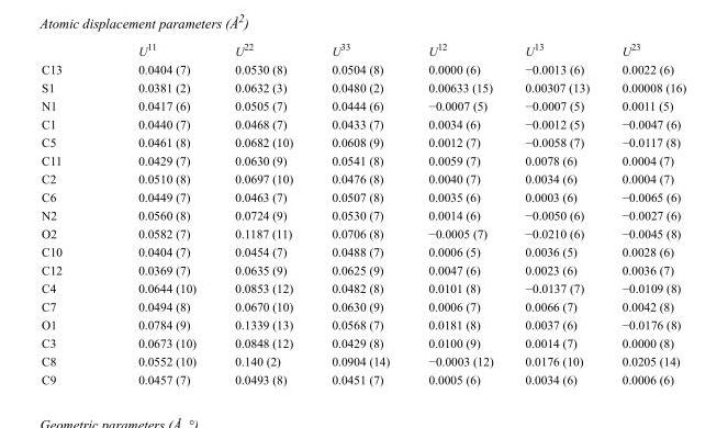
<table><thead><tr><td></td><td>U<sup>11</sup></td><td>U<sup>22</sup></td><td>U<sup>33</sup></td><td>U<sup>12</sup></td><td>U<sup>13</sup></td><td>U<sup>23</sup></td></tr></thead><tbody><tr><td>C13</td><td>0.0404 (7)</td><td>0.0530 (8)</td><td>0.0504 (8)</td><td>0.0000 (6)</td><td>−0.0013 (6)</td><td>0.0022 (6)</td></tr><tr><td>S1</td><td>0.0381 (2)</td><td>0.0632 (3)</td><td>0.0480 (2)</td><td>0.00633 (15)</td><td>0.00307 (13)</td><td>0.00008 (16)</td></tr><tr><td>N1</td><td>0.0417 (6)</td><td>0.0505 (7)</td><td>0.0444 (6)</td><td>−0.0007 (5)</td><td>−0.0007 (5)</td><td>0.0011 (5)</td></tr><tr><td>C1</td><td>0.0440 (7)</td><td>0.0468 (7)</td><td>0.0433 (7)</td><td>0.0034 (6)</td><td>−0.0012 (5)</td><td>−0.0047 (6)</td></tr><tr><td>C5</td><td>0.0461 (8)</td><td>0.0682 (10)</td><td>0.0608 (9)</td><td>0.0012 (7)</td><td>−0.0058 (7)</td><td>−0.0117 (8)</td></tr><tr><td>C11</td><td>0.0429 (7)</td><td>0.0630 (9)</td><td>0.0541 (8)</td><td>0.0059 (7)</td><td>0.0078 (6)</td><td>0.0004 (7)</td></tr><tr><td>C2</td><td>0.0510 (8)</td><td>0.0697 (10)</td><td>0.0476 (8)</td><td>0.0040 (7)</td><td>0.0034 (6)</td><td>0.0004 (7)</td></tr><tr><td>C6</td><td>0.0449 (7)</td><td>0.0463 (7)</td><td>0.0507 (8)</td><td>0.0035 (6)</td><td>0.0003 (6)</td><td>−0.0065 (6)</td></tr><tr><td>N2</td><td>0.0560 (8)</td><td>0.0724 (9)</td><td>0.0530 (7)</td><td>0.0014 (6)</td><td>−0.0050 (6)</td><td>−0.0027 (6)</td></tr><tr><td>O2</td><td>0.0582 (7)</td><td>0.1187 (11)</td><td>0.0706 (8)</td><td>−0.0005 (7)</td><td>−0.0210 (6)</td><td>−0.0045 (8)</td></tr><tr><td>C10</td><td>0.0404 (7)</td><td>0.0454 (7)</td><td>0.0488 (7)</td><td>0.0006 (5)</td><td>0.0036 (5)</td><td>0.0028 (6)</td></tr><tr><td>C12</td><td>0.0369 (7)</td><td>0.0635 (9)</td><td>0.0625 (9)</td><td>0.0047 (6)</td><td>0.0023 (6)</td><td>0.0036 (7)</td></tr><tr><td>C4</td><td>0.0644 (10)</td><td>0.0853 (12)</td><td>0.0482 (8)</td><td>0.0101 (8)</td><td>−0.0137 (7)</td><td>−0.0109 (8)</td></tr><tr><td>C7</td><td>0.0494 (8)</td><td>0.0670 (10)</td><td>0.0630 (9)</td><td>0.0006 (7)</td><td>0.0066 (7)</td><td>0.0042 (8)</td></tr><tr><td>O1</td><td>0.0784 (9)</td><td>0.1339 (13)</td><td>0.0568 (7)</td><td>0.0181 (8)</td><td>0.0037 (6)</td><td>−0.0176 (8)</td></tr><tr><td>C3</td><td>0.0673 (10)</td><td>0.0848 (12)</td><td>0.0429 (8)</td><td>0.0100 (9)</td><td>0.0014 (7)</td><td>0.0000 (8)</td></tr><tr><td>C8</td><td>0.0552 (10)</td><td>0.140 (2)</td><td>0.0904 (14)</td><td>−0.0003 (12)</td><td>0.0176 (10)</td><td>0.0205 (14)</td></tr><tr><td>C9</td><td>0.0457 (7)</td><td>0.0493 (8)</td><td>0.0451 (7)</td><td>0.0005 (6)</td><td>0.0034 (6)</td><td>0.0006 (6)</td></tr></tbody></table>